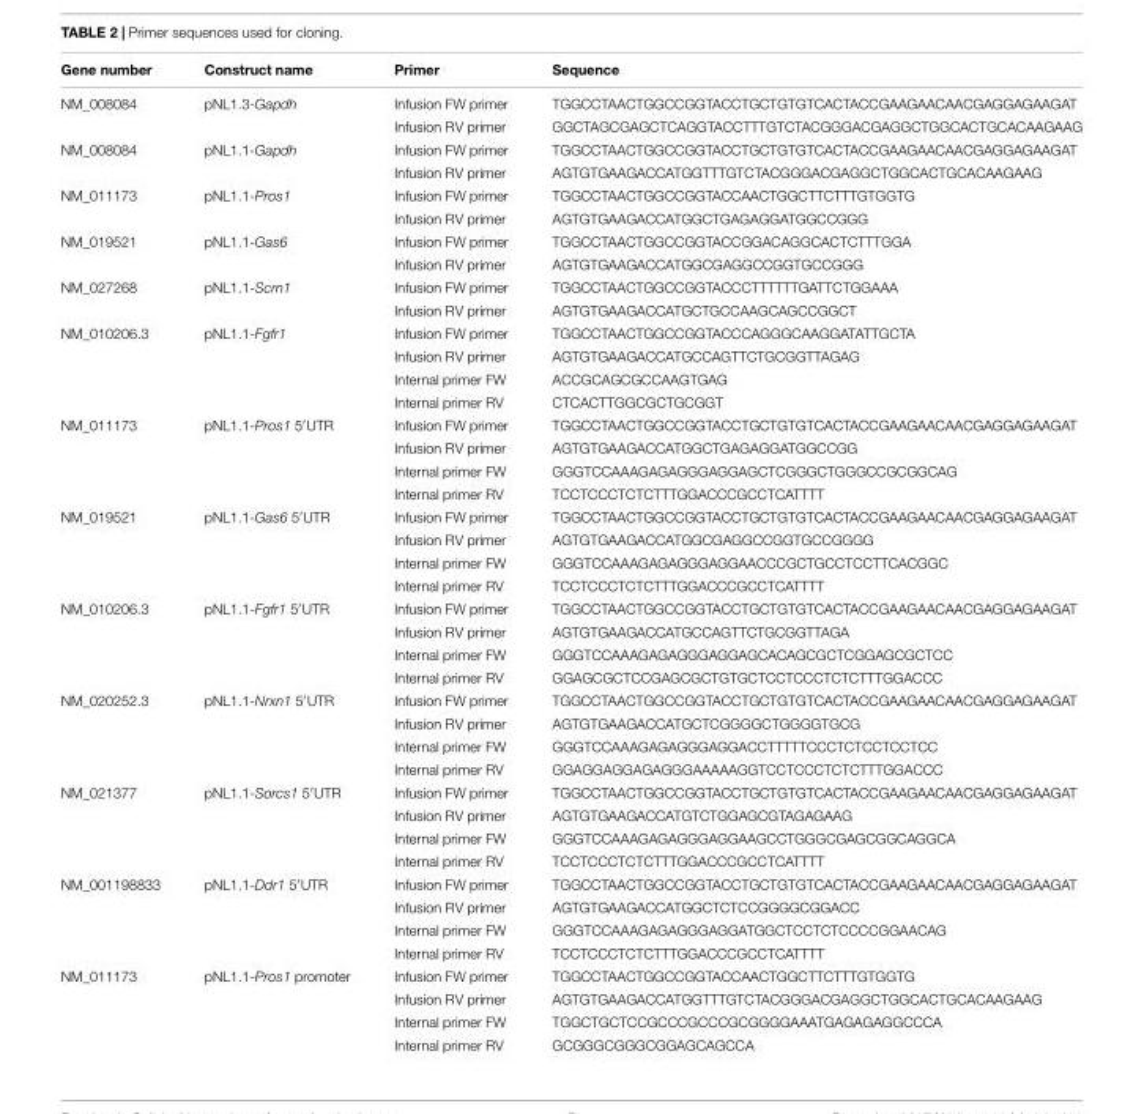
<table><thead><tr><td>Gene number</td><td>Construct name</td><td>Primer</td><td>Sequence</td></tr></thead><tbody><tr><td rowspan="2">NM_008084</td><td>pNL1.3-Gapdh</td><td>Infusion FW primer</td><td>TGGCCTAACTGGCCGGTACCTGCTGTGTCACTACCGAAGAACAACGAGGAGAAGAT</td></tr><tr><td></td><td>Infusion RV primer</td><td>GGCTAGCGAGCTCAGGTACCTTTGTCTACGGGACGAGGCTGGCACTGCACAAGAAG</td></tr><tr><td rowspan="2">NM_008084</td><td>pNL1.1-Gapdh</td><td>Infusion FW primer</td><td>TGGCCTAACTGGCCGGTACCTGCTGTGTCACTACCGAAGAACAACGAGGAGAAGAT</td></tr><tr><td></td><td>Infusion RV primer</td><td>AGTGTGAAGACCATGGTTTGTCTACGGGACGAGGCTGGCACTGCACAAGAAG</td></tr><tr><td rowspan="2">NM_011173</td><td>pNL1.1-Pros1</td><td>Infusion FW primer</td><td>TGGCCTAACTGGCCGGTACCAACTGGCTTCTTTGTGGTG</td></tr><tr><td></td><td>Infusion RV primer</td><td>AGTGTGAAGACCATGGCTGAGAGGATGGCCGGG</td></tr><tr><td rowspan="2">NM_019521</td><td>pNL1.1-Gas6</td><td>Infusion FW primer</td><td>TGGCCTAACTGGCCGGTACCGGACAGGCACTCTTTGGA</td></tr><tr><td></td><td>Infusion RV primer</td><td>AGTGTGAAGACCATGGCGAGGCCGGTGCCGGG</td></tr><tr><td rowspan="2">NM_027268</td><td>pNL1.1-Scrn1</td><td>Infusion FW primer</td><td>TGGCCTAACTGGCCGGTACCCTTTTTTGATTCTGGAAA</td></tr><tr><td></td><td>Infusion RV primer</td><td>AGTGTGAAGACCATGCTGCCAAGCAGCCGGCT</td></tr><tr><td rowspan="4">NM_010206.3</td><td>pNL1.1-Fgfr1</td><td>Infusion FW primer</td><td>TGGCCTAACTGGCCGGTACCCAGGGCAAGGATATTGCTA</td></tr><tr><td></td><td>Infusion RV primer</td><td>AGTGTGAAGACCATGCCAGTTCTGCGGTTAGAG</td></tr><tr><td></td><td>Internal primer FW</td><td>ACCGCAGCGCCAAGTGAG</td></tr><tr><td></td><td>Internal primer RV</td><td>CTCACTTGGCGCTGCGGT</td></tr><tr><td rowspan="4">NM_011173</td><td>pNL1.1-Pros1 5′UTR</td><td>Infusion FW primer</td><td>TGGCCTAACTGGCCGGTACCTGCTGTGTCACTACCGAAGAACAACGAGGAGAAGAT</td></tr><tr><td></td><td>Infusion RV primer</td><td>AGTGTGAAGACCATGGCTGAGAGGATGGCCGG</td></tr><tr><td></td><td>Internal primer FW</td><td>GGGTCCAAAGAGAGGGAGGAGCTCGGGCTGGGCCGCGGCAG</td></tr><tr><td></td><td>Internal primer RV</td><td>TCCTCCCTCTCTTTGGACCCGCCTCATTTT</td></tr><tr><td rowspan="4">NM_019521</td><td>pNL1.1-Gas6 5′UTR</td><td>Infusion FW primer</td><td>TGGCCTAACTGGCCGGTACCTGCTGTGTCACTACCGAAGAACAACGAGGAGAAGAT</td></tr><tr><td></td><td>Infusion RV primer</td><td>AGTGTGAAGACCATGGCGAGGCCGGTGCCGGGG</td></tr><tr><td></td><td>Internal primer FW</td><td>GGGTCCAAAGAGAGGGAGGAACCCGCTGCCTCCTTCACGGC</td></tr><tr><td></td><td>Internal primer RV</td><td>TCCTCCCTCTCTTTGGACCCGCCTCATTTT</td></tr><tr><td rowspan="4">NM_010206.3</td><td>pNL1.1-Fgfr1 5′UTR</td><td>Infusion FW primer</td><td>TGGCCTAACTGGCCGGTACCTGCTGTGTCACTACCGAAGAACAACGAGGAGAAGAT</td></tr><tr><td></td><td>Infusion RV primer</td><td>AGTGTGAAGACCATGCCAGTTCTGCGGTTAGA</td></tr><tr><td></td><td>Internal primer FW</td><td>GGGTCCAAAGAGAGGGAGGAGCACAGCGCTCGGAGCGCTCC</td></tr><tr><td></td><td>Internal primer RV</td><td>GGAGCGCTCCGAGCGCTGTGCTCCTCCCTCTCTTTGGACCC</td></tr><tr><td rowspan="4">NM_020252.3</td><td>pNL1.1-Nrxn1 5′UTR</td><td>Infusion FW primer</td><td>TGGCCTAACTGGCCGGTACCTGCTGTGTCACTACCGAAGAACAACGAGGAGAAGAT</td></tr><tr><td></td><td>Infusion RV primer</td><td>AGTGTGAAGACCATGCTCGGGGCTGGGGTGCG</td></tr><tr><td></td><td>Internal primer FW</td><td>GGGTCCAAAGAGAGGGAGGACCTTTTTCCCTCTCCTCCTCC</td></tr><tr><td></td><td>Internal primer RV</td><td>GGAGGAGGAGAGGGAAAAAGGTCCTCCCTCTCTTTGGACCC</td></tr><tr><td rowspan="4">NM_021377</td><td>pNL1.1-Sorcs1 5′UTR</td><td>Infusion FW primer</td><td>TGGCCTAACTGGCCGGTACCTGCTGTGTCACTACCGAAGAACAACGAGGAGAAGAT</td></tr><tr><td></td><td>Infusion RV primer</td><td>AGTGTGAAGACCATGTCTGGAGCGTAGAGAAG</td></tr><tr><td></td><td>Internal primer FW</td><td>GGGTCCAAAGAGAGGGAGGAAGCCTGGGCGAGCGGCAGGCA</td></tr><tr><td></td><td>Internal primer RV</td><td>TCCTCCCTCTCTTTGGACCCGCCTCATTTT</td></tr><tr><td rowspan="4">NM_001198833</td><td>pNL1.1-Ddr1 5′UTR</td><td>Infusion FW primer</td><td>TGGCCTAACTGGCCGGTACCTGCTGTGTCACTACCGAAGAACAACGAGGAGAAGAT</td></tr><tr><td></td><td>Infusion RV primer</td><td>AGTGTGAAGACCATGGCTCTCCGGGGCGGACC</td></tr><tr><td></td><td>Internal primer FW</td><td>GGGTCCAAAGAGAGGGAGGATGGCTCCTCTCCCCGGAACAG</td></tr><tr><td></td><td>Internal primer RV</td><td>TCCTCCCTCTCTTTGGACCCGCCTCATTTT</td></tr><tr><td rowspan="4">NM_011173</td><td>pNL1.1-Pros1 promoter</td><td>Infusion FW primer</td><td>TGGCCTAACTGGCCGGTACCAACTGGCTTCTTTGTGGTG</td></tr><tr><td></td><td>Infusion RV primer</td><td>AGTGTGAAGACCATGGTTTGTCTACGGGACGAGGCTGGCACTGCACAAGAAG</td></tr><tr><td></td><td>Internal primer FW</td><td>TGGCTGCTCCGCCCGCCCGCGGGGAAATGAGAGAGGCCCA</td></tr><tr><td></td><td>Internal primer RV</td><td>GCGGGCGGGCGGAGCAGCCA</td></tr></tbody></table>